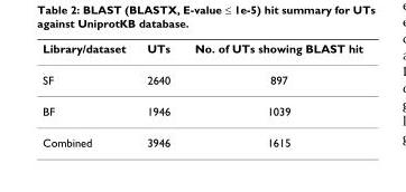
<table><thead><tr><td>Library/dataset</td><td>UTs</td><td>No. of UTs showing BLAST hit</td></tr></thead><tbody><tr><td>SF</td><td>2640</td><td>897</td></tr><tr><td>BF</td><td>1946</td><td>1039</td></tr><tr><td>Combined</td><td>3946</td><td>1615</td></tr></tbody></table>